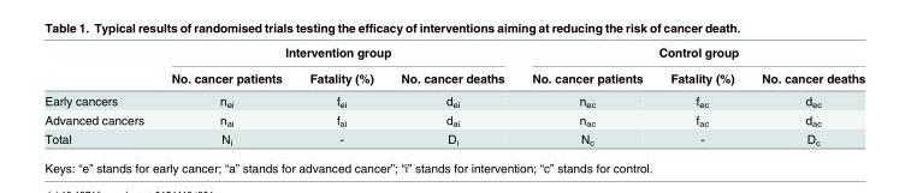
<table><thead><tr><td rowspan="2"></td><td colspan="3">Intervention group</td><td colspan="3">Control group</td></tr><tr><td>No. cancer patients</td><td>Fatality (%)</td><td>No. cancer deaths</td><td>No. cancer patients</td><td>Fatality (%)</td><td>No. cancer deaths</td></tr></thead><tbody><tr><td>Early cancers</td><td>n<sub>ei</sub></td><td>f<sub>ei</sub></td><td>d<sub>ei</sub></td><td>n<sub>ec</sub></td><td>f<sub>ec</sub></td><td>d<sub>ec</sub></td></tr><tr><td>Advanced cancers</td><td>n<sub>ai</sub></td><td>f<sub>ai</sub></td><td>d<sub>ai</sub></td><td>n<sub>ac</sub></td><td>f<sub>ac</sub></td><td>d<sub>ac</sub></td></tr><tr><td>Total</td><td>N<sub>i</sub></td><td>-</td><td>D<sub>i</sub></td><td>N<sub>c</sub></td><td>-</td><td>D<sub>c</sub></td></tr></tbody></table>